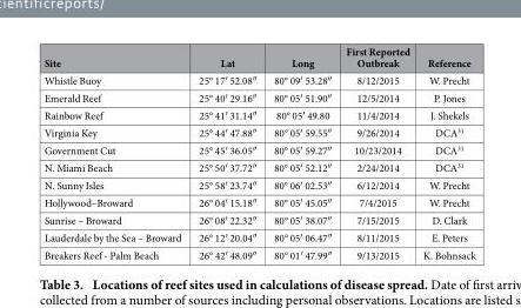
<table><thead><tr><td>Site</td><td>Lat</td><td>Long</td><td>First Reported Outbreak</td><td>Reference</td></tr></thead><tbody><tr><td>Whistle Buoy</td><td>25° 17′ 52.08″</td><td>80° 09′ 53.28″</td><td>8/12/2015</td><td>W. Precht</td></tr><tr><td>Emerald Reef</td><td>25° 40′ 29.16″</td><td>80° 05′ 51.90″</td><td>12/5/2014</td><td>P. Jones</td></tr><tr><td>Rainbow Reef</td><td>25° 41′ 31.14″</td><td>80° 05′ 49.80</td><td>11/4/2014</td><td>J. Shekels</td></tr><tr><td>Virginia Key</td><td>25° 44′ 47.88″</td><td>80° 05′ 59.55″</td><td>9/26/2014</td><td>DCA<sup>31</sup></td></tr><tr><td>Government Cut</td><td>25° 45′ 36.05″</td><td>80° 05′ 59.27″</td><td>10/23/2014</td><td>DCA<sup>31</sup></td></tr><tr><td>N. Miami Beach</td><td>25° 50′ 37.72″</td><td>80° 05′ 52.12″</td><td>2/24/2014</td><td>DCA<sup>31</sup></td></tr><tr><td>N. Sunny Isles</td><td>25° 58′ 23.74″</td><td>80° 06′ 02.53″</td><td>6/12/2014</td><td>W. Precht</td></tr><tr><td>Hollywood–Broward</td><td>26° 04′ 15.18″</td><td>80° 05′ 45.05″</td><td>7/4/2015</td><td>W. Precht</td></tr><tr><td>Sunrise – Broward</td><td>26° 08′ 22.32″</td><td>80° 05′ 38.07″</td><td>7/15/2015</td><td>D. Clark</td></tr><tr><td>Lauderdale by the Sea – Broward</td><td>26° 12′ 20.04″</td><td>80° 05′ 06.47″</td><td>8/11/2015</td><td>E. Peters</td></tr><tr><td>Breakers Reef - Palm Beach</td><td>26° 42′ 48.09″</td><td>80° 01′ 47.99″</td><td>9/13/2015</td><td>K. Bohnsack</td></tr></tbody></table>